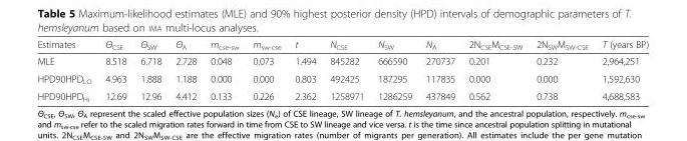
<table><thead><tr><td>Estimates</td><td>Θ<sub>CSE</sub></td><td>Θ<sub>SW</sub></td><td>Θ<sub>A</sub></td><td>m<sub>cse-sw</sub></td><td>m<sub>sw-cse</sub></td><td>t</td><td>N<sub>CSE</sub></td><td>N<sub>SW</sub></td><td>N<sub>A</sub></td><td>2N<sub>CSE</sub>M<sub>CSE-SW</sub></td><td>2N<sub>SW</sub>M<sub>SW-CSE</sub></td><td>T (years BP)</td></tr></thead><tbody><tr><td>MLE</td><td>8.518</td><td>6.718</td><td>2.728</td><td>0.048</td><td>0.073</td><td>1.494</td><td>845282</td><td>666590</td><td>270737</td><td>0.201</td><td>0.232</td><td>2,964,251</td></tr><tr><td>HPD90HPD<sub>LO</sub></td><td>4.963</td><td>1.888</td><td>1.188</td><td>0.000</td><td>0.000</td><td>0.803</td><td>492425</td><td>187295</td><td>117835</td><td>0.000</td><td>0.000</td><td>1,592,630</td></tr><tr><td>HPD90HPD<sub>Hi</sub></td><td>12.69</td><td>12.96</td><td>4.412</td><td>0.133</td><td>0.226</td><td>2.362</td><td>1258971</td><td>1286259</td><td>437849</td><td>0.562</td><td>0.738</td><td>4,688,583</td></tr></tbody></table>